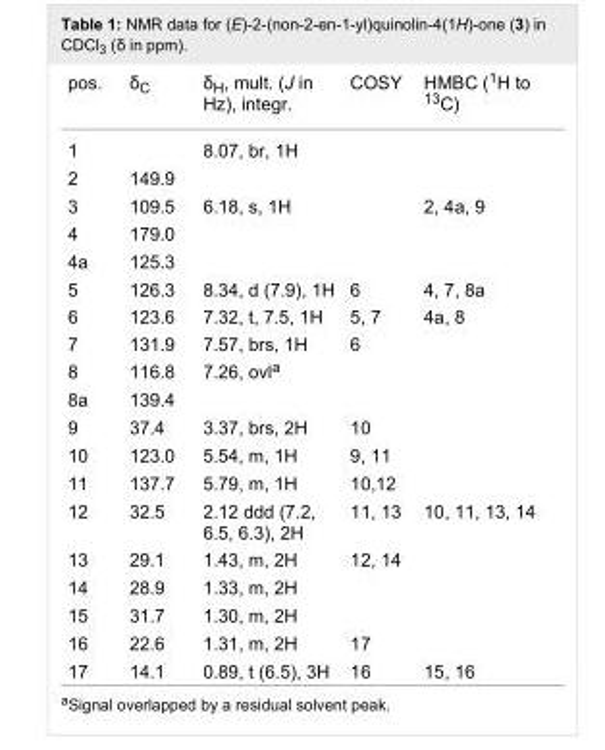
<table><tbody><tr><td>pos.</td><td>δ<sub>C</sub></td><td>δ<sub>H</sub>, mult. (J in Hz), integr.</td><td>COSY</td><td>HMBC (<sup>1</sup>H to <sup>13</sup>C)</td></tr><tr><td>1</td><td></td><td>8.07, br, 1H</td><td></td><td></td></tr><tr><td>2</td><td>149.9</td><td></td><td></td><td></td></tr><tr><td>3</td><td>109.5</td><td>6.18, s, 1H</td><td></td><td>2, 4a, 9</td></tr><tr><td>4</td><td>179.0</td><td></td><td></td><td></td></tr><tr><td>4a</td><td>125.3</td><td></td><td></td><td></td></tr><tr><td>5</td><td>126.3</td><td>8.34, d (7.9), 1H</td><td>6</td><td>4, 7, 8a</td></tr><tr><td>6</td><td>123.6</td><td>7.32, t, 7.5, 1H</td><td>5, 7</td><td>4a, 8</td></tr><tr><td>7</td><td>131.9</td><td>7.57, brs, 1H</td><td>6</td><td></td></tr><tr><td>8</td><td>116.8</td><td>7.26, ovl<sup>a</sup></td><td></td><td></td></tr><tr><td>8a</td><td>139.4</td><td></td><td></td><td></td></tr><tr><td>9</td><td>37.4</td><td>3.37, brs, 2H</td><td>10</td><td></td></tr><tr><td>10</td><td>123.0</td><td>5.54, m, 1H</td><td>9, 11</td><td></td></tr><tr><td>11</td><td>137.7</td><td>5.79, m, 1H</td><td>10,12</td><td></td></tr><tr><td>12</td><td>32.5</td><td>2.12 ddd (7.2, 6.5, 6.3), 2H</td><td>11, 13</td><td>10, 11, 13, 14</td></tr><tr><td>13</td><td>29.1</td><td>1.43, m, 2H</td><td>12, 14</td><td></td></tr><tr><td>14</td><td>28.9</td><td>1.33, m, 2H</td><td></td><td></td></tr><tr><td>15</td><td>31.7</td><td>1.30, m, 2H</td><td></td><td></td></tr><tr><td>16</td><td>22.6</td><td>1.31, m, 2H</td><td>17</td><td></td></tr><tr><td>17</td><td>14.1</td><td>0.89, t (6.5), 3H</td><td>16</td><td>15, 16</td></tr></tbody></table>